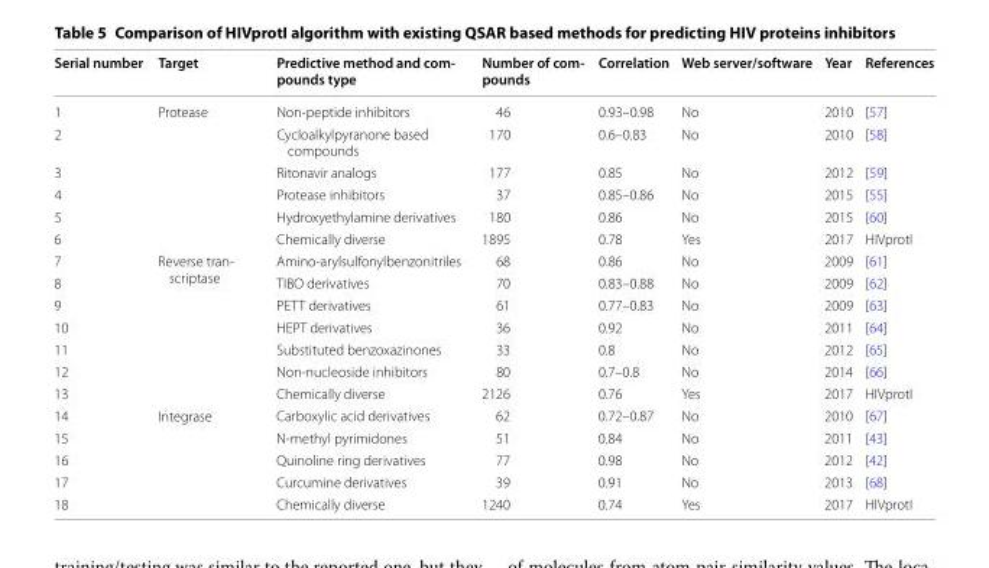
<table><thead><tr><td>Serial number</td><td>Target</td><td>Predictive method and com- pounds type</td><td>Number of com- pounds</td><td>Correlation</td><td>Web server/software</td><td>Year</td><td>References</td></tr></thead><tbody><tr><td>1</td><td rowspan="6">Protease</td><td>Non-peptide inhibitors</td><td>46</td><td>0.93–0.98</td><td>No</td><td>2010</td><td>[57]</td></tr><tr><td>2</td><td>Cycloalkylpyranone based compounds</td><td>170</td><td>0.6–0.83</td><td>No</td><td>2010</td><td>[58]</td></tr><tr><td>3</td><td>Ritonavir analogs</td><td>177</td><td>0.85</td><td>No</td><td>2012</td><td>[59]</td></tr><tr><td>4</td><td>Protease inhibitors</td><td>37</td><td>0.85–0.86</td><td>No</td><td>2015</td><td>[55]</td></tr><tr><td>5</td><td>Hydroxyethylamine derivatives</td><td>180</td><td>0.86</td><td>No</td><td>2015</td><td>[60]</td></tr><tr><td>6</td><td>Chemically diverse</td><td>1895</td><td>0.78</td><td>Yes</td><td>2017</td><td>HIVprotI</td></tr><tr><td>7</td><td rowspan="7">Reverse tran- scriptase</td><td>Amino-arylsulfonylbenzonitriles</td><td>68</td><td>0.86</td><td>No</td><td>2009</td><td>[61]</td></tr><tr><td>8</td><td>TIBO derivatives</td><td>70</td><td>0.83–0.88</td><td>No</td><td>2009</td><td>[62]</td></tr><tr><td>9</td><td>PETT derivatives</td><td>61</td><td>0.77–0.83</td><td>No</td><td>2009</td><td>[63]</td></tr><tr><td>10</td><td>HEPT derivatives</td><td>36</td><td>0.92</td><td>No</td><td>2011</td><td>[64]</td></tr><tr><td>11</td><td>Substituted benzoxazinones</td><td>33</td><td>0.8</td><td>No</td><td>2012</td><td>[65]</td></tr><tr><td>12</td><td>Non-nucleoside inhibitors</td><td>80</td><td>0.7–0.8</td><td>No</td><td>2014</td><td>[66]</td></tr><tr><td>13</td><td>Chemically diverse</td><td>2126</td><td>0.76</td><td>Yes</td><td>2017</td><td>HIVprotI</td></tr><tr><td>14</td><td rowspan="5">Integrase</td><td>Carboxylic acid derivatives</td><td>62</td><td>0.72–0.87</td><td>No</td><td>2010</td><td>[67]</td></tr><tr><td>15</td><td>N-methyl pyrimidones</td><td>51</td><td>0.84</td><td>No</td><td>2011</td><td>[43]</td></tr><tr><td>16</td><td>Quinoline ring derivatives</td><td>77</td><td>0.98</td><td>No</td><td>2012</td><td>[42]</td></tr><tr><td>17</td><td>Curcumine derivatives</td><td>39</td><td>0.91</td><td>No</td><td>2013</td><td>[68]</td></tr><tr><td>18</td><td>Chemically diverse</td><td>1240</td><td>0.74</td><td>Yes</td><td>2017</td><td>HIVprotI</td></tr></tbody></table>